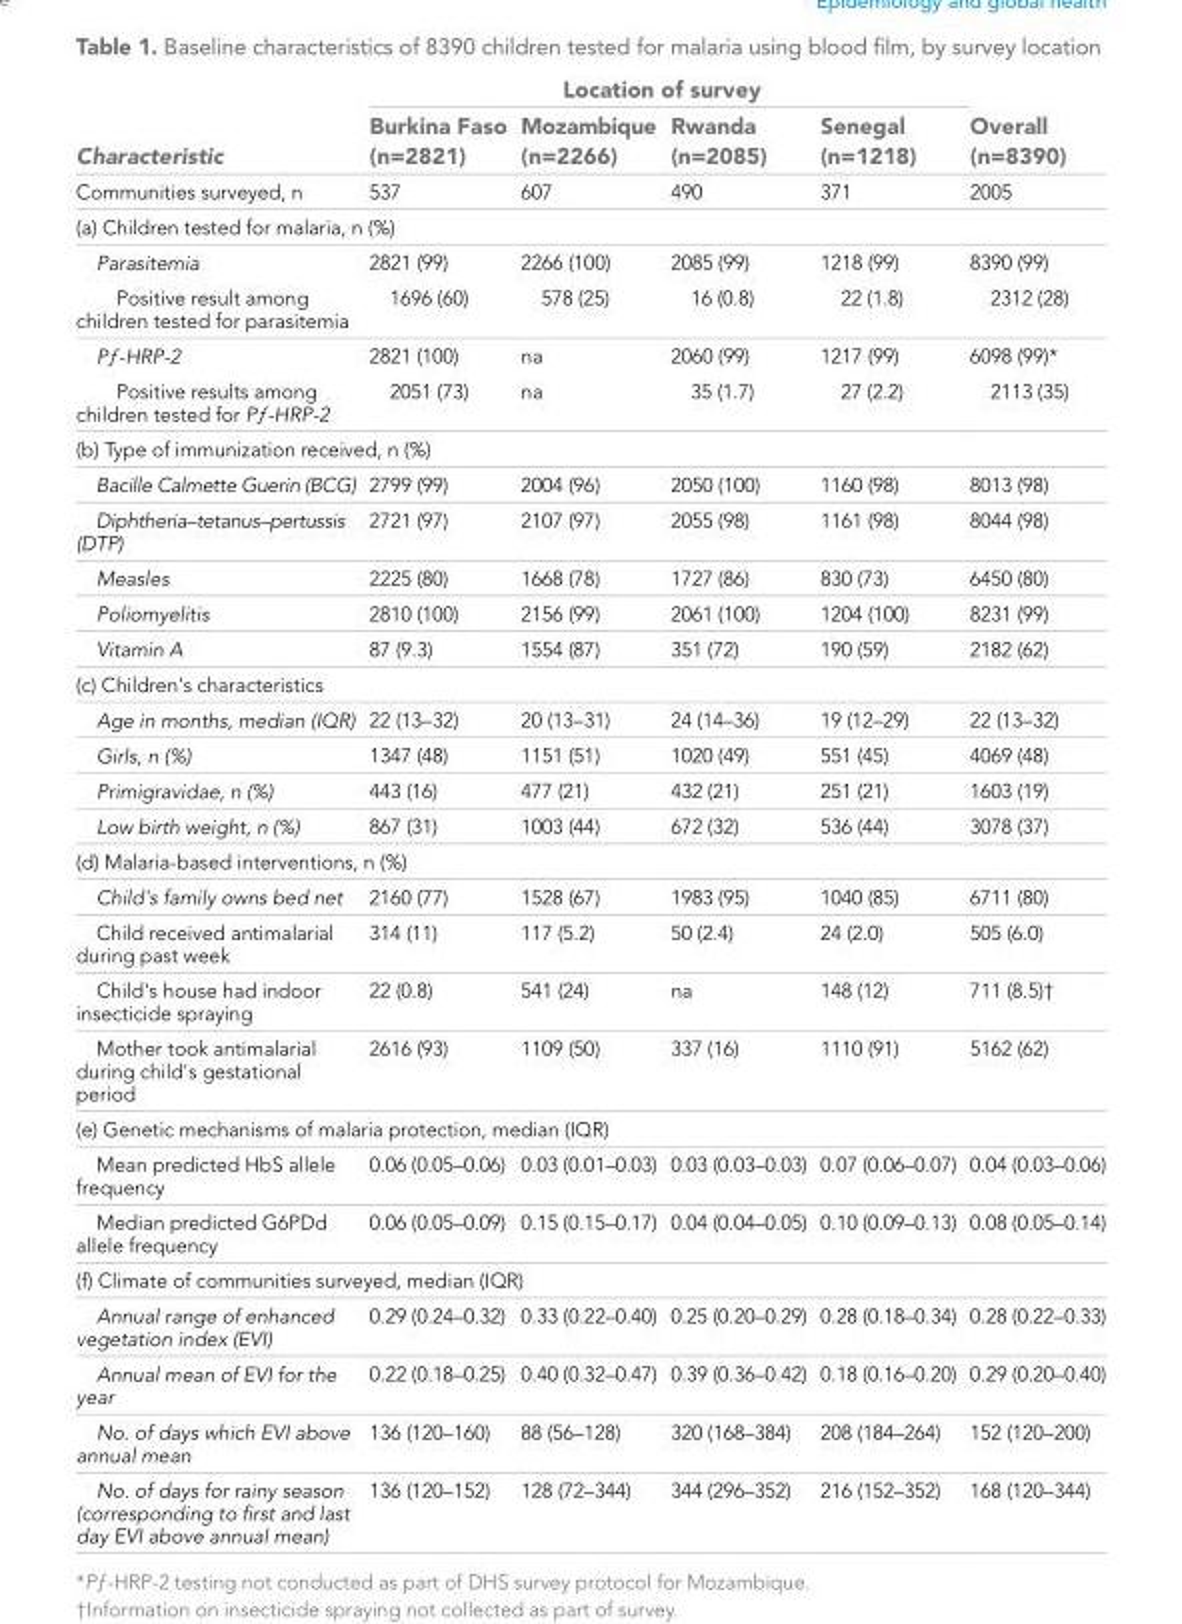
<table><thead><tr><td rowspan="2">Characteristic</td><td colspan="4">Location of survey</td><td rowspan="2">Overall (n=8390)</td></tr><tr><td>Burkina Faso (n=2821)</td><td>Mozambique (n=2266)</td><td>Rwanda (n=2085)</td><td>Senegal (n=1218)</td></tr></thead><tbody><tr><td>Communities surveyed, n</td><td>537</td><td>607</td><td>490</td><td>371</td><td>2005</td></tr><tr><td colspan="6">(a) Children tested for malaria, n (%)</td></tr><tr><td>Parasitemia</td><td>2821 (99)</td><td>2266 (100)</td><td>2085 (99)</td><td>1218 (99)</td><td>8390 (99)</td></tr><tr><td>Positive result among children tested for parasitemia</td><td>1696 (60)</td><td>578 (25)</td><td>16 (0.8)</td><td>22 (1.8)</td><td>2312 (28)</td></tr><tr><td>Pƒ-HRP-2</td><td>2821 (100)</td><td>na</td><td>2060 (99)</td><td>1217 (99)</td><td>6098 (99)*</td></tr><tr><td>Positive results among children tested for Pƒ-HRP-2</td><td>2051 (73)</td><td>na</td><td>35 (1.7)</td><td>27 (2.2)</td><td>2113 (35)</td></tr><tr><td colspan="6">(b) Type of immunization received, n (%)</td></tr><tr><td>Bacille Calmette Guerin (BCG)</td><td>2799 (99)</td><td>2004 (96)</td><td>2050 (100)</td><td>1160 (98)</td><td>8013 (98)</td></tr><tr><td>Diphtheria–tetanus–pertussis (DTP)</td><td>2721 (97)</td><td>2107 (97)</td><td>2055 (98)</td><td>1161 (98)</td><td>8044 (98)</td></tr><tr><td>Measles</td><td>2225 (80)</td><td>1668 (78)</td><td>1727 (86)</td><td>830 (73)</td><td>6450 (80)</td></tr><tr><td>Poliomyelitis</td><td>2810 (100)</td><td>2156 (99)</td><td>2061 (100)</td><td>1204 (100)</td><td>8231 (99)</td></tr><tr><td>Vitamin A</td><td>87 (9.3)</td><td>1554 (87)</td><td>351 (72)</td><td>190 (59)</td><td>2182 (62)</td></tr><tr><td colspan="6">(c) Children&#x27;s characteristics</td></tr><tr><td>Age in months, median (IQR)</td><td>22 (13–32)</td><td>20 (13–31)</td><td>24 (14–36)</td><td>19 (12–29)</td><td>22 (13–32)</td></tr><tr><td>Girls, n (%)</td><td>1347 (48)</td><td>1151 (51)</td><td>1020 (49)</td><td>551 (45)</td><td>4069 (48)</td></tr><tr><td>Primigravidae, n (%)</td><td>443 (16)</td><td>477 (21)</td><td>432 (21)</td><td>251 (21)</td><td>1603 (19)</td></tr><tr><td>Low birth weight, n (%)</td><td>867 (31)</td><td>1003 (44)</td><td>672 (32)</td><td>536 (44)</td><td>3078 (37)</td></tr><tr><td colspan="6">(d) Malaria-based interventions, n (%)</td></tr><tr><td>Child&#x27;s family owns bed net</td><td>2160 (77)</td><td>1528 (67)</td><td>1983 (95)</td><td>1040 (85)</td><td>6711 (80)</td></tr><tr><td>Child received antimalarial during past week</td><td>314 (11)</td><td>117 (5.2)</td><td>50 (2.4)</td><td>24 (2.0)</td><td>505 (6.0)</td></tr><tr><td>Child&#x27;s house had indoor insecticide spraying</td><td>22 (0.8)</td><td>541 (24)</td><td>na</td><td>148 (12)</td><td>711 (8.5)†</td></tr><tr><td>Mother took antimalarial during child&#x27;s gestational period</td><td>2616 (93)</td><td>1109 (50)</td><td>337 (16)</td><td>1110 (91)</td><td>5162 (62)</td></tr><tr><td colspan="6">(e) Genetic mechanisms of malaria protection, median (IQR)</td></tr><tr><td>Mean predicted HbS allele frequency</td><td>0.06 (0.05–0.06)</td><td>0.03 (0.01–0.03)</td><td>0.03 (0.03–0.03)</td><td>0.07 (0.06–0.07)</td><td>0.04 (0.03–0.06)</td></tr><tr><td>Median predicted G6PDd allele frequency</td><td>0.06 (0.05–0.09)</td><td>0.15 (0.15–0.17)</td><td>0.04 (0.04–0.05)</td><td>0.10 (0.09–0.13)</td><td>0.08 (0.05–0.14)</td></tr><tr><td colspan="6">(f) Climate of communities surveyed, median (IQR)</td></tr><tr><td>Annual range of enhanced vegetation index (EVI)</td><td>0.29 (0.24–0.32)</td><td>0.33 (0.22–0.40)</td><td>0.25 (0.20–0.29)</td><td>0.28 (0.18–0.34)</td><td>0.28 (0.22–0.33)</td></tr><tr><td>Annual mean of EVI for the year</td><td>0.22 (0.18–0.25)</td><td>0.40 (0.32–0.47)</td><td>0.39 (0.36–0.42)</td><td>0.18 (0.16–0.20)</td><td>0.29 (0.20–0.40)</td></tr><tr><td>No. of days which EVI above annual mean</td><td>136 (120–160)</td><td>88 (56–128)</td><td>320 (168–384)</td><td>208 (184–264)</td><td>152 (120–200)</td></tr><tr><td>No. of days for rainy season (corresponding to first and last day EVI above annual mean)</td><td>136 (120–152)</td><td>128 (72–344)</td><td>344 (296–352)</td><td>216 (152–352)</td><td>168 (120–344)</td></tr></tbody></table>